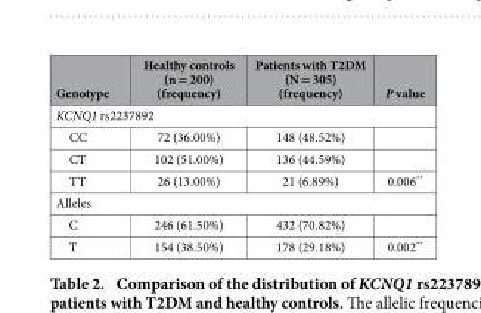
<table><thead><tr><td>Genotype</td><td>Healthy controls (n = 200) (frequency)</td><td>Patients with T2DM (N = 305) (frequency)</td><td>P value</td></tr></thead><tbody><tr><td colspan="4">KCNQ1 rs2237892</td></tr><tr><td>CC</td><td>72 (36.00%)</td><td>148 (48.52%)</td><td></td></tr><tr><td>CT</td><td>102 (51.00%)</td><td>136 (44.59%)</td><td></td></tr><tr><td>TT</td><td>26 (13.00%)</td><td>21 (6.89%)</td><td>0.006**</td></tr><tr><td colspan="4">Alleles</td></tr><tr><td>C</td><td>246 (61.50%)</td><td>432 (70.82%)</td><td></td></tr><tr><td>T</td><td>154 (38.50%)</td><td>178 (29.18%)</td><td>0.002**</td></tr></tbody></table>